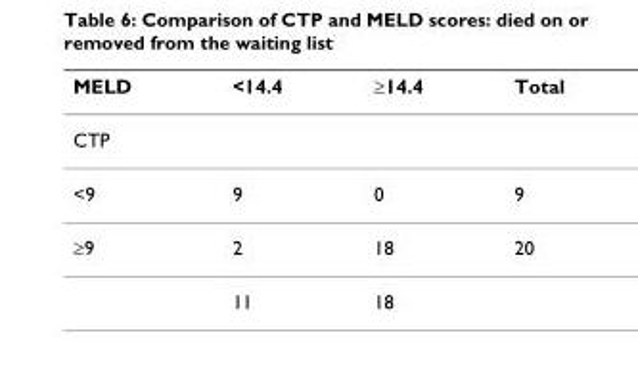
<table><thead><tr><td>MELD</td><td>&lt;14.4</td><td>≥14.4</td><td>Total</td></tr></thead><tbody><tr><td colspan="4">CTP</td></tr><tr><td>&lt;9</td><td>9</td><td>0</td><td>9</td></tr><tr><td rowspan="2">≥9</td><td>2</td><td>18</td><td>20</td></tr><tr><td>11</td><td>18</td><td></td></tr></tbody></table>